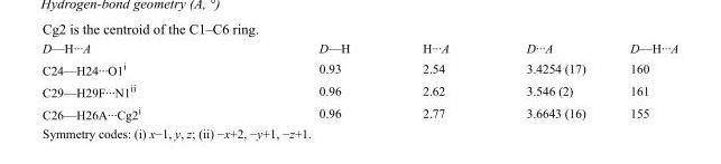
<table><tbody><tr><td>D—H···A</td><td>D—H</td><td>H···A</td><td>D···A</td><td>D—H···A</td></tr><tr><td>C24—H24···O1<sup>i</sup></td><td>0.93</td><td>2.54</td><td>3.4254 (17)</td><td>160</td></tr><tr><td>C29—H29F···N1<sup>ii</sup></td><td>0.96</td><td>2.62</td><td>3.546 (2)</td><td>161</td></tr><tr><td>C26—H26A···Cg2<sup>i</sup></td><td>0.96</td><td>2.77</td><td>3.6643 (16)</td><td>155</td></tr></tbody></table>